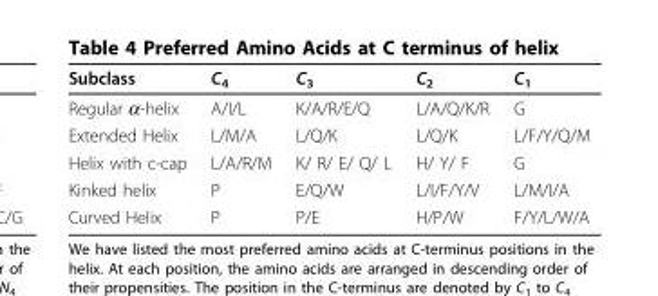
<table><thead><tr><td>Subclass</td><td>C<sub>4</sub></td><td>C<sub>3</sub></td><td>C<sub>2</sub></td><td>C<sub>1</sub></td></tr></thead><tbody><tr><td>Regular α-helix</td><td>A/I/L</td><td>K/A/R/E/Q</td><td>L/A/Q/K/R</td><td>G</td></tr><tr><td>Extended Helix</td><td>L/M/A</td><td>L/Q/K</td><td>L/Q/K</td><td>L/F/Y/Q/M</td></tr><tr><td>Helix with c-cap</td><td>L/A/R/M</td><td>K/ R/ E/ Q/ L</td><td>H/ Y/ F</td><td>G</td></tr><tr><td>Kinked helix</td><td>P</td><td>E/Q/W</td><td>L/I/F/Y/V</td><td>L/M/I/A</td></tr><tr><td>Curved Helix</td><td>P</td><td>P/E</td><td>H/P/W</td><td>F/Y/L/W/A</td></tr></tbody></table>